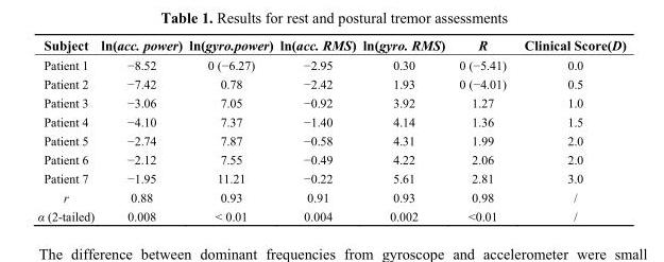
<table><thead><tr><td>Subject</td><td>ln(acc. power)</td><td>ln(gyro.power)</td><td>ln(acc. RMS)</td><td>ln(gyro. RMS)</td><td>R</td><td>Clinical Score(D)</td></tr></thead><tbody><tr><td>Patient 1</td><td>−8.52</td><td>0 (−6.27)</td><td>−2.95</td><td>0.30</td><td>0 (−5.41)</td><td>0.0</td></tr><tr><td>Patient 2</td><td>−7.42</td><td>0.78</td><td>−2.42</td><td>1.93</td><td>0 (−4.01)</td><td>0.5</td></tr><tr><td>Patient 3</td><td>−3.06</td><td>7.05</td><td>−0.92</td><td>3.92</td><td>1.27</td><td>1.0</td></tr><tr><td>Patient 4</td><td>−4.10</td><td>7.37</td><td>−1.40</td><td>4.14</td><td>1.36</td><td>1.5</td></tr><tr><td>Patient 5</td><td>−2.74</td><td>7.87</td><td>−0.58</td><td>4.31</td><td>1.99</td><td>2.0</td></tr><tr><td>Patient 6</td><td>−2.12</td><td>7.55</td><td>−0.49</td><td>4.22</td><td>2.06</td><td>2.0</td></tr><tr><td>Patient 7</td><td>−1.95</td><td>11.21</td><td>−0.22</td><td>5.61</td><td>2.81</td><td>3.0</td></tr><tr><td>r</td><td>0.88</td><td>0.93</td><td>0.91</td><td>0.93</td><td>0.98</td><td>/</td></tr><tr><td>α (2-tailed)</td><td>0.008</td><td>&lt; 0.01</td><td>0.004</td><td>0.002</td><td>&lt;0.01</td><td>/</td></tr></tbody></table>